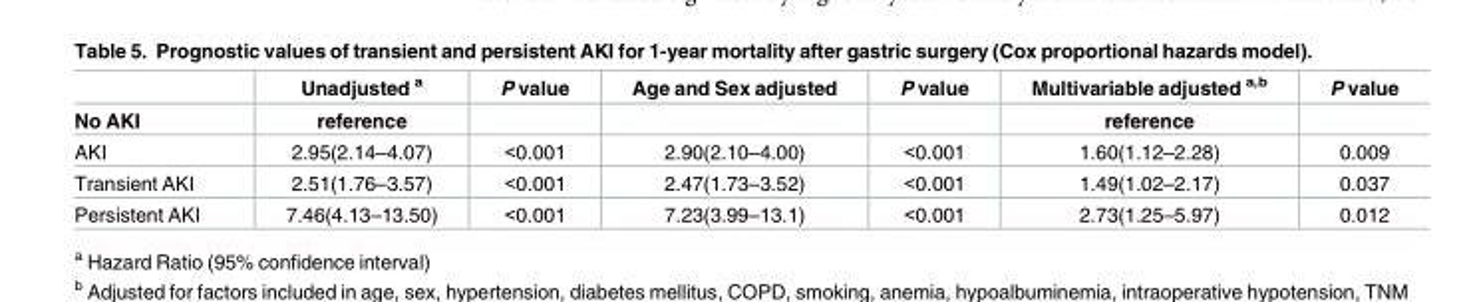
<table><thead><tr><td rowspan="2">No AKI</td><td rowspan="2">Unadjusted <sup>a</sup> reference</td><td rowspan="2">P value</td><td rowspan="2">Age and Sex adjusted</td><td rowspan="2">P value</td><td rowspan="2">Multivariable adjusted <sup>a,b</sup> reference</td><td rowspan="2">P value</td></tr><tr></tr></thead><tbody><tr><td>AKI</td><td>2.95(2.14–4.07)</td><td>&lt;0.001</td><td>2.90(2.10–4.00)</td><td>&lt;0.001</td><td>1.60(1.12–2.28)</td><td>0.009</td></tr><tr><td>Transient AKI</td><td>2.51(1.76–3.57)</td><td>&lt;0.001</td><td>2.47(1.73–3.52)</td><td>&lt;0.001</td><td>1.49(1.02–2.17)</td><td>0.037</td></tr><tr><td>Persistent AKI</td><td>7.46(4.13–13.50)</td><td>&lt;0.001</td><td>7.23(3.99–13.1)</td><td>&lt;0.001</td><td>2.73(1.25–5.97)</td><td>0.012</td></tr></tbody></table>